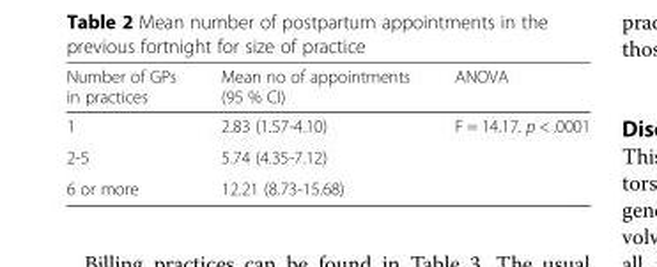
<table><thead><tr><td>Number of GPs in practices</td><td>Mean no of appointments (95 % CI)</td><td>ANOVA</td></tr></thead><tbody><tr><td>1</td><td>2.83 (1.57-4.10)</td><td rowspan="3">F = 14.17. p &lt; .0001</td></tr><tr><td>2-5</td><td>5.74 (4.35-7.12)</td></tr><tr><td>6 or more</td><td>12.21 (8.73-15.68)</td></tr></tbody></table>